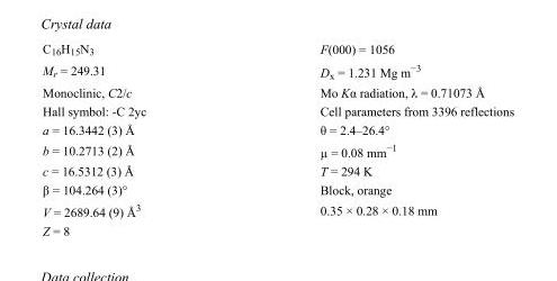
<table><tbody><tr><td>C<sub>16</sub>H<sub>15</sub>N<sub>3</sub></td><td>F(000) = 1056</td></tr><tr><td>M<sub>r</sub> = 249.31</td><td>D<sub>x</sub> = 1.231 Mg m<sup>−3</sup></td></tr><tr><td>Monoclinic, C2/c</td><td>Mo Kα radiation, λ = 0.71073 Å</td></tr><tr><td>Hall symbol: -C 2yc</td><td>Cell parameters from 3396 reflections</td></tr><tr><td>a = 16.3442 (3) Å</td><td>θ = 2.4–26.4°</td></tr><tr><td>b = 10.2713 (2) Å</td><td>µ = 0.08 mm<sup>−1</sup></td></tr><tr><td>c = 16.5312 (3) Å</td><td>T = 294 K</td></tr><tr><td>β = 104.264 (3)°</td><td>Block, orange</td></tr><tr><td>V = 2689.64 (9) Å<sup>3</sup></td><td>0.35 × 0.28 × 0.18 mm</td></tr><tr><td>Z = 8</td><td></td></tr></tbody></table>